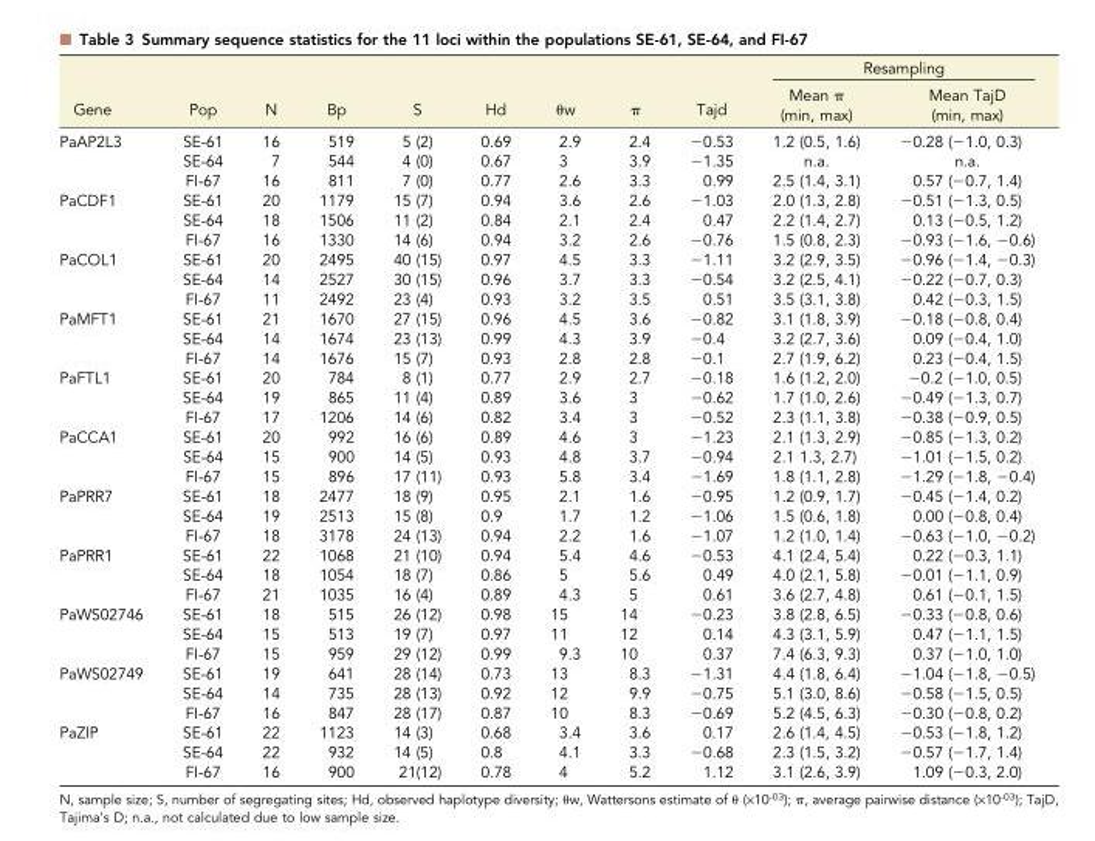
<table><thead><tr><td rowspan="2">Gene</td><td rowspan="2">Pop</td><td rowspan="2">N</td><td rowspan="2">Bp</td><td rowspan="2">S</td><td rowspan="2">Hd</td><td rowspan="2">θw</td><td rowspan="2">π</td><td rowspan="2">Tajd</td><td colspan="2">Resampling</td></tr><tr><td>Mean π (min, max)</td><td>Mean TajD (min, max)</td></tr></thead><tbody><tr><td rowspan="3">PaAP2L3</td><td>SE-61</td><td>16</td><td>519</td><td>5 (2)</td><td>0.69</td><td>2.9</td><td>2.4</td><td>−0.53</td><td>1.2 (0.5, 1.6)</td><td>−0.28 (−1.0, 0.3)</td></tr><tr><td>SE-64</td><td>7</td><td>544</td><td>4 (0)</td><td>0.67</td><td>3</td><td>3.9</td><td>−1.35</td><td>n.a.</td><td>n.a.</td></tr><tr><td>FI-67</td><td>16</td><td>811</td><td>7 (0)</td><td>0.77</td><td>2.6</td><td>3.3</td><td>0.99</td><td>2.5 (1.4, 3.1)</td><td>0.57 (−0.7, 1.4)</td></tr><tr><td rowspan="3">PaCDF1</td><td>SE-61</td><td>20</td><td>1179</td><td>15 (7)</td><td>0.94</td><td>3.6</td><td>2.6</td><td>−1.03</td><td>2.0 (1.3, 2.8)</td><td>−0.51 (−1.3, 0.5)</td></tr><tr><td>SE-64</td><td>18</td><td>1506</td><td>11 (2)</td><td>0.84</td><td>2.1</td><td>2.4</td><td>0.47</td><td>2.2 (1.4, 2.7)</td><td>0.13 (−0.5, 1.2)</td></tr><tr><td>FI-67</td><td>16</td><td>1330</td><td>14 (6)</td><td>0.94</td><td>3.2</td><td>2.6</td><td>−0.76</td><td>1.5 (0.8, 2.3)</td><td>−0.93 (−1.6, −0.6)</td></tr><tr><td rowspan="3">PaCOL1</td><td>SE-61</td><td>20</td><td>2495</td><td>40 (15)</td><td>0.97</td><td>4.5</td><td>3.3</td><td>−1.11</td><td>3.2 (2.9, 3.5)</td><td>−0.96 (−1.4, −0.3)</td></tr><tr><td>SE-64</td><td>14</td><td>2527</td><td>30 (15)</td><td>0.96</td><td>3.7</td><td>3.3</td><td>−0.54</td><td>3.2 (2.5, 4.1)</td><td>−0.22 (−0.7, 0.3)</td></tr><tr><td>FI-67</td><td>11</td><td>2492</td><td>23 (4)</td><td>0.93</td><td>3.2</td><td>3.5</td><td>0.51</td><td>3.5 (3.1, 3.8)</td><td>0.42 (−0.3, 1.5)</td></tr><tr><td rowspan="3">PaMFT1</td><td>SE-61</td><td>21</td><td>1670</td><td>27 (15)</td><td>0.96</td><td>4.5</td><td>3.6</td><td>−0.82</td><td>3.1 (1.8, 3.9)</td><td>−0.18 (−0.8, 0.4)</td></tr><tr><td>SE-64</td><td>14</td><td>1674</td><td>23 (13)</td><td>0.99</td><td>4.3</td><td>3.9</td><td>−0.4</td><td>3.2 (2.7, 3.6)</td><td>0.09 (−0.4, 1.0)</td></tr><tr><td>FI-67</td><td>14</td><td>1676</td><td>15 (7)</td><td>0.93</td><td>2.8</td><td>2.8</td><td>−0.1</td><td>2.7 (1.9, 6.2)</td><td>0.23 (−0.4, 1.5)</td></tr><tr><td rowspan="3">PaFTL1</td><td>SE-61</td><td>20</td><td>784</td><td>8 (1)</td><td>0.77</td><td>2.9</td><td>2.7</td><td>−0.18</td><td>1.6 (1.2, 2.0)</td><td>−0.2 (−1.0, 0.5)</td></tr><tr><td>SE-64</td><td>19</td><td>865</td><td>11 (4)</td><td>0.89</td><td>3.6</td><td>3</td><td>−0.62</td><td>1.7 (1.0, 2.6)</td><td>−0.49 (−1.3, 0.7)</td></tr><tr><td>FI-67</td><td>17</td><td>1206</td><td>14 (6)</td><td>0.82</td><td>3.4</td><td>3</td><td>−0.52</td><td>2.3 (1.1, 3.8)</td><td>−0.38 (−0.9, 0.5)</td></tr><tr><td rowspan="3">PaCCA1</td><td>SE-61</td><td>20</td><td>992</td><td>16 (6)</td><td>0.89</td><td>4.6</td><td>3</td><td>−1.23</td><td>2.1 (1.3, 2.9)</td><td>−0.85 (−1.3, 0.2)</td></tr><tr><td>SE-64</td><td>15</td><td>900</td><td>14 (5)</td><td>0.93</td><td>4.8</td><td>3.7</td><td>−0.94</td><td>2.1 1.3, 2.7)</td><td>−1.01 (−1.5, 0.2)</td></tr><tr><td>FI-67</td><td>15</td><td>896</td><td>17 (11)</td><td>0.93</td><td>5.8</td><td>3.4</td><td>−1.69</td><td>1.8 (1.1, 2.8)</td><td>−1.29 (−1.8, −0.4)</td></tr><tr><td rowspan="3">PaPRR7</td><td>SE-61</td><td>18</td><td>2477</td><td>18 (9)</td><td>0.95</td><td>2.1</td><td>1.6</td><td>−0.95</td><td>1.2 (0.9, 1.7)</td><td>−0.45 (−1.4, 0.2)</td></tr><tr><td>SE-64</td><td>19</td><td>2513</td><td>15 (8)</td><td>0.9</td><td>1.7</td><td>1.2</td><td>−1.06</td><td>1.5 (0.6, 1.8)</td><td>0.00 (−0.8, 0.4)</td></tr><tr><td>FI-67</td><td>18</td><td>3178</td><td>24 (13)</td><td>0.94</td><td>2.2</td><td>1.6</td><td>−1.07</td><td>1.2 (1.0, 1.4)</td><td>−0.63 (−1.0, −0.2)</td></tr><tr><td rowspan="3">PaPRR1</td><td>SE-61</td><td>22</td><td>1068</td><td>21 (10)</td><td>0.94</td><td>5.4</td><td>4.6</td><td>−0.53</td><td>4.1 (2.4, 5.4)</td><td>0.22 (−0.3, 1.1)</td></tr><tr><td>SE-64</td><td>18</td><td>1054</td><td>18 (7)</td><td>0.86</td><td>5</td><td>5.6</td><td>0.49</td><td>4.0 (2.1, 5.8)</td><td>−0.01 (−1.1, 0.9)</td></tr><tr><td>FI-67</td><td>21</td><td>1035</td><td>16 (4)</td><td>0.89</td><td>4.3</td><td>5</td><td>0.61</td><td>3.6 (2.7, 4.8)</td><td>0.61 (−0.1, 1.5)</td></tr><tr><td rowspan="3">PaWS02746</td><td>SE-61</td><td>18</td><td>515</td><td>26 (12)</td><td>0.98</td><td>15</td><td>14</td><td>−0.23</td><td>3.8 (2.8, 6.5)</td><td>−0.33 (−0.8, 0.6)</td></tr><tr><td>SE-64</td><td>15</td><td>513</td><td>19 (7)</td><td>0.97</td><td>11</td><td>12</td><td>0.14</td><td>4.3 (3.1, 5.9)</td><td>0.47 (−1.1, 1.5)</td></tr><tr><td>FI-67</td><td>15</td><td>959</td><td>29 (12)</td><td>0.99</td><td>9.3</td><td>10</td><td>0.37</td><td>7.4 (6.3, 9.3)</td><td>0.37 (−1.0, 1.0)</td></tr><tr><td rowspan="3">PaWS02749</td><td>SE-61</td><td>19</td><td>641</td><td>28 (14)</td><td>0.73</td><td>13</td><td>8.3</td><td>−1.31</td><td>4.4 (1.8, 6.4)</td><td>−1.04 (−1.8, −0.5)</td></tr><tr><td>SE-64</td><td>14</td><td>735</td><td>28 (13)</td><td>0.92</td><td>12</td><td>9.9</td><td>−0.75</td><td>5.1 (3.0, 8.6)</td><td>−0.58 (−1.5, 0.5)</td></tr><tr><td>FI-67</td><td>16</td><td>847</td><td>28 (17)</td><td>0.87</td><td>10</td><td>8.3</td><td>−0.69</td><td>5.2 (4.5, 6.3)</td><td>−0.30 (−0.8, 0.2)</td></tr><tr><td rowspan="3">PaZIP</td><td>SE-61</td><td>22</td><td>1123</td><td>14 (3)</td><td>0.68</td><td>3.4</td><td>3.6</td><td>0.17</td><td>2.6 (1.4, 4.5)</td><td>−0.53 (−1.8, 1.2)</td></tr><tr><td>SE-64</td><td>22</td><td>932</td><td>14 (5)</td><td>0.8</td><td>4.1</td><td>3.3</td><td>−0.68</td><td>2.3 (1.5, 3.2)</td><td>−0.57 (−1.7, 1.4)</td></tr><tr><td>FI-67</td><td>16</td><td>900</td><td>21(12)</td><td>0.78</td><td>4</td><td>5.2</td><td>1.12</td><td>3.1 (2.6, 3.9)</td><td>1.09 (−0.3, 2.0)</td></tr></tbody></table>